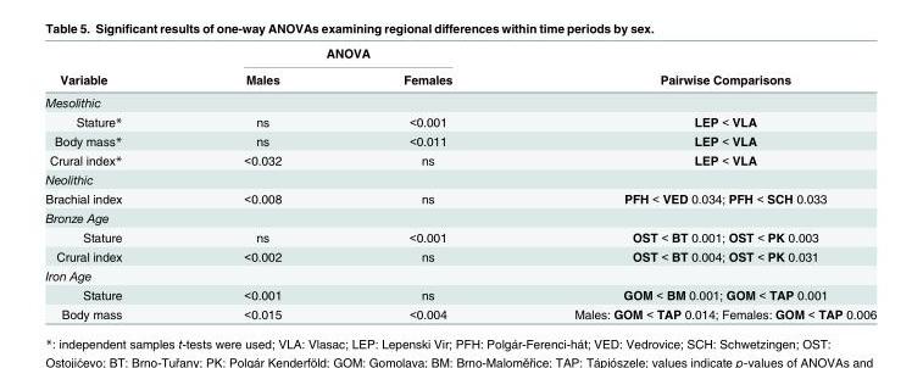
<table><thead><tr><td rowspan="2">Variable</td><td colspan="2">ANOVA</td><td rowspan="2">Pairwise Comparisons</td></tr><tr><td>Males</td><td>Females</td></tr></thead><tbody><tr><td colspan="4">Mesolithic</td></tr><tr><td>Stature*</td><td>ns</td><td>&lt;0.001</td><td>LEP &lt; VLA</td></tr><tr><td>Body mass*</td><td>ns</td><td>&lt;0.011</td><td>LEP &lt; VLA</td></tr><tr><td>Crural index*</td><td>&lt;0.032</td><td>ns</td><td>LEP &lt; VLA</td></tr><tr><td colspan="4">Neolithic</td></tr><tr><td>Brachial index</td><td>&lt;0.008</td><td>ns</td><td>PFH &lt; VED 0.034; PFH &lt; SCH 0.033</td></tr><tr><td colspan="4">Bronze Age</td></tr><tr><td>Stature</td><td>ns</td><td>&lt;0.001</td><td>OST &lt; BT 0.001; OST &lt; PK 0.003</td></tr><tr><td>Crural index</td><td>&lt;0.002</td><td>ns</td><td>OST &lt; BT 0.004; OST &lt; PK 0.031</td></tr><tr><td colspan="4">Iron Age</td></tr><tr><td>Stature</td><td>&lt;0.001</td><td>ns</td><td>GOM &lt; BM 0.001; GOM &lt; TAP 0.001</td></tr><tr><td>Body mass</td><td>&lt;0.015</td><td>&lt;0.004</td><td>Males: GOM &lt; TAP 0.014; Females: GOM &lt; TAP 0.006</td></tr></tbody></table>